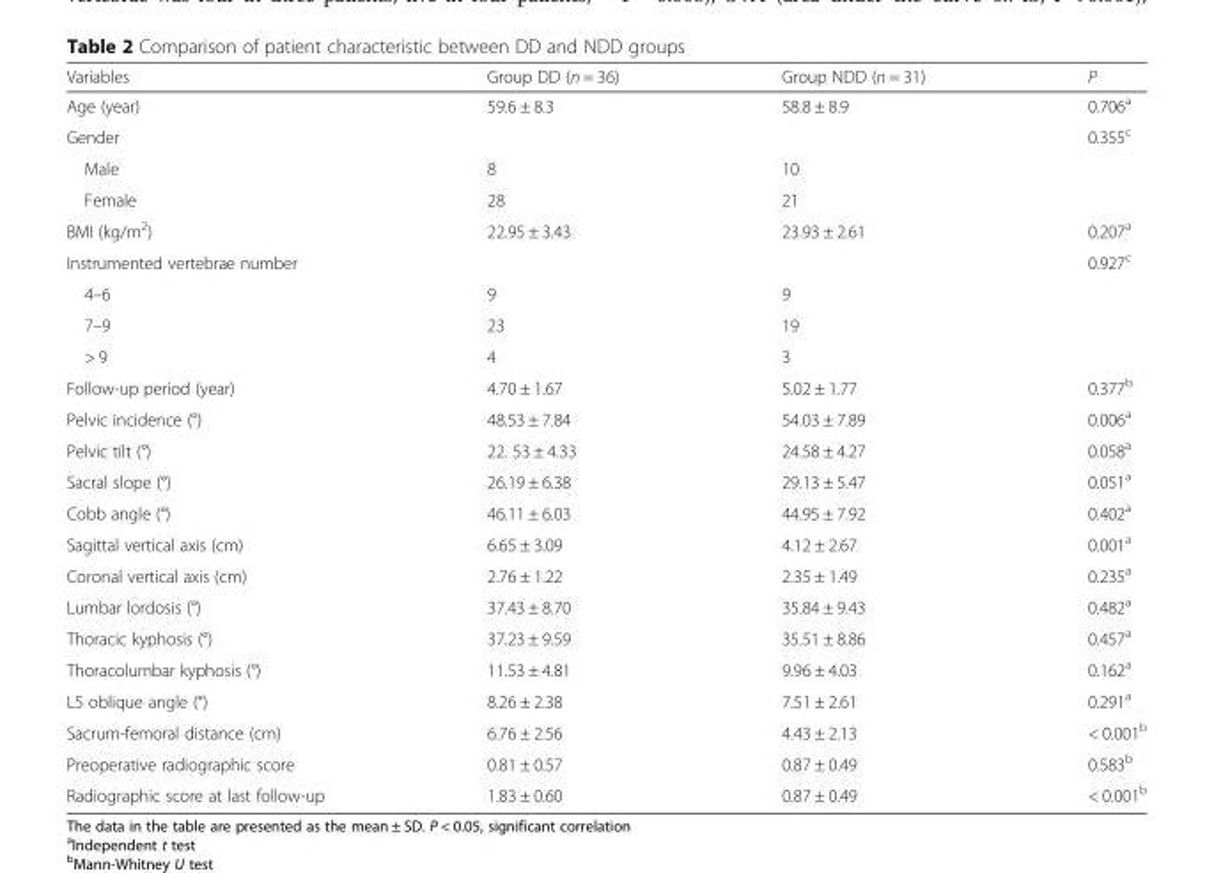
<table><thead><tr><td>Variables</td><td>Group DD (n = 36)</td><td>Group NDD (n = 31)</td><td>P</td></tr></thead><tbody><tr><td>Age (year)</td><td>59.6 ± 8.3</td><td>58.8 ± 8.9</td><td>0.706<sup>a</sup></td></tr><tr><td>Gender</td><td></td><td></td><td>0.355<sup>c</sup></td></tr><tr><td>Male</td><td>8</td><td>10</td><td></td></tr><tr><td>Female</td><td>28</td><td>21</td><td></td></tr><tr><td>BMI (kg/m<sup>2</sup>)</td><td>22.95 ± 3.43</td><td>23.93 ± 2.61</td><td>0.207<sup>a</sup></td></tr><tr><td>Instrumented vertebrae number</td><td></td><td></td><td>0.927<sup>c</sup></td></tr><tr><td>4–6</td><td>9</td><td>9</td><td></td></tr><tr><td>7–9</td><td>23</td><td>19</td><td></td></tr><tr><td>&gt; 9</td><td>4</td><td>3</td><td></td></tr><tr><td>Follow-up period (year)</td><td>4.70 ± 1.67</td><td>5.02 ± 1.77</td><td>0.377<sup>b</sup></td></tr><tr><td>Pelvic incidence (°)</td><td>48.53 ± 7.84</td><td>54.03 ± 7.89</td><td>0.006<sup>a</sup></td></tr><tr><td>Pelvic tilt (°)</td><td>22. 53 ± 4.33</td><td>24.58 ± 4.27</td><td>0.058<sup>a</sup></td></tr><tr><td>Sacral slope (°)</td><td>26.19 ± 6.38</td><td>29.13 ± 5.47</td><td>0.051<sup>a</sup></td></tr><tr><td>Cobb angle (°)</td><td>46.11 ± 6.03</td><td>44.95 ± 7.92</td><td>0.402<sup>a</sup></td></tr><tr><td>Sagittal vertical axis (cm)</td><td>6.65 ± 3.09</td><td>4.12 ± 2.67</td><td>0.001<sup>a</sup></td></tr><tr><td>Coronal vertical axis (cm)</td><td>2.76 ± 1.22</td><td>2.35 ± 1.49</td><td>0.235<sup>a</sup></td></tr><tr><td>Lumbar lordosis (°)</td><td>37.43 ± 8.70</td><td>35.84 ± 9.43</td><td>0.482<sup>a</sup></td></tr><tr><td>Thoracic kyphosis (°)</td><td>37.23 ± 9.59</td><td>35.51 ± 8.86</td><td>0.457<sup>a</sup></td></tr><tr><td>Thoracolumbar kyphosis (°)</td><td>11.53 ± 4.81</td><td>9.96 ± 4.03</td><td>0.162<sup>a</sup></td></tr><tr><td>L5 oblique angle (°)</td><td>8.26 ± 2.38</td><td>7.51 ± 2.61</td><td>0.291<sup>a</sup></td></tr><tr><td>Sacrum-femoral distance (cm)</td><td>6.76 ± 2.56</td><td>4.43 ± 2.13</td><td>&lt; 0.001<sup>b</sup></td></tr><tr><td>Preoperative radiographic score</td><td>0.81 ± 0.57</td><td>0.87 ± 0.49</td><td>0.583<sup>b</sup></td></tr><tr><td>Radiographic score at last follow-up</td><td>1.83 ± 0.60</td><td>0.87 ± 0.49</td><td>&lt; 0.001<sup>b</sup></td></tr></tbody></table>